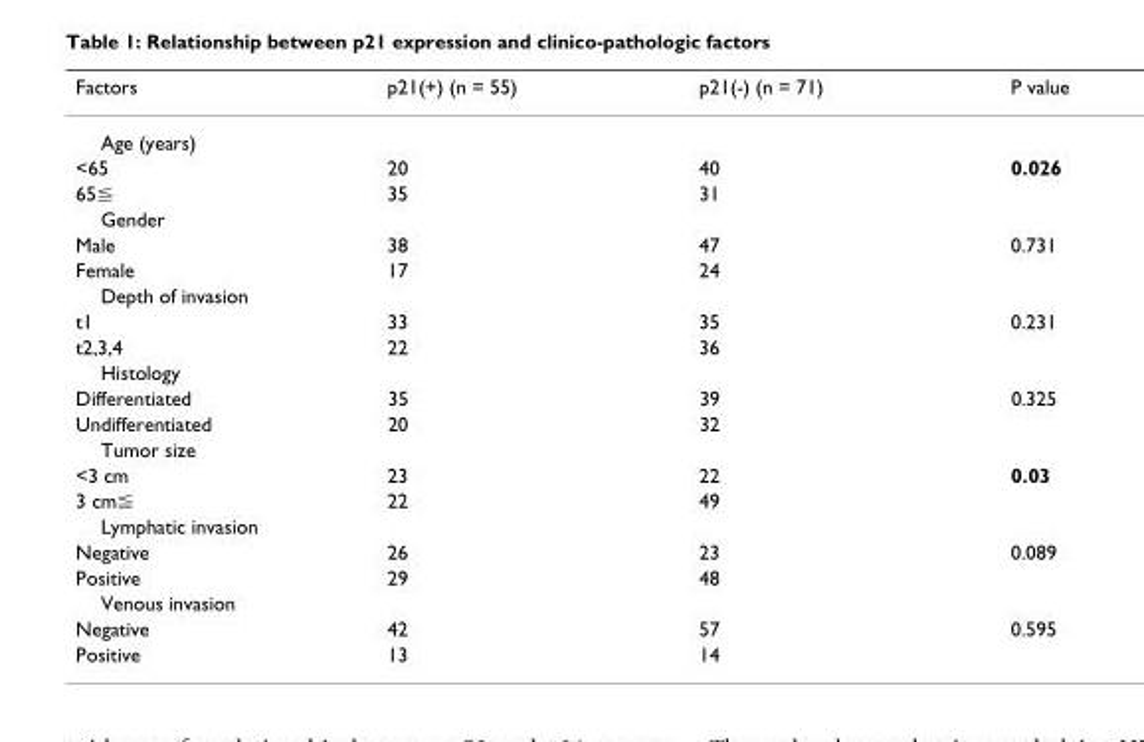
<table><thead><tr><td>Factors</td><td>p21(+) (n = 55)</td><td>p21(-) (n = 71)</td><td>P value</td></tr></thead><tbody><tr><td colspan="4">Age (years)</td></tr><tr><td>&lt;65</td><td>20</td><td>40</td><td>0.026</td></tr><tr><td>65≦</td><td>35</td><td>31</td><td></td></tr><tr><td colspan="4">Gender</td></tr><tr><td>Male</td><td>38</td><td>47</td><td>0.731</td></tr><tr><td>Female</td><td>17</td><td>24</td><td></td></tr><tr><td colspan="4">Depth of invasion</td></tr><tr><td>t1</td><td>33</td><td>35</td><td>0.231</td></tr><tr><td>t2,3,4</td><td>22</td><td>36</td><td></td></tr><tr><td colspan="4">Histology</td></tr><tr><td>Differentiated</td><td>35</td><td>39</td><td>0.325</td></tr><tr><td>Undifferentiated</td><td>20</td><td>32</td><td></td></tr><tr><td colspan="4">Tumor size</td></tr><tr><td>&lt;3 cm</td><td>23</td><td>22</td><td>0.03</td></tr><tr><td>3 cm≦</td><td>22</td><td>49</td><td></td></tr><tr><td colspan="4">Lymphatic invasion</td></tr><tr><td>Negative</td><td>26</td><td>23</td><td>0.089</td></tr><tr><td>Positive</td><td>29</td><td>48</td><td></td></tr><tr><td colspan="4">Venous invasion</td></tr><tr><td>Negative</td><td>42</td><td>57</td><td>0.595</td></tr><tr><td>Positive</td><td>13</td><td>14</td><td></td></tr></tbody></table>